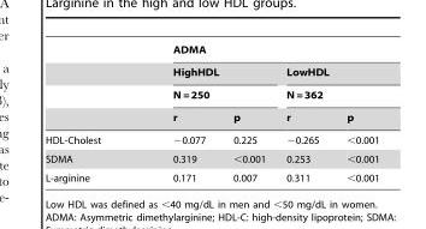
<table><thead><tr><td rowspan="4"></td><td colspan="4">ADMA</td></tr><tr><td rowspan="2" colspan="2">HighHDL N = 250</td><td rowspan="2" colspan="2">LowHDL N = 362</td></tr><tr></tr><tr><td>r</td><td>p</td><td>r</td><td>p</td></tr></thead><tbody><tr><td>HDL-Cholest</td><td>−0.077</td><td>0.225</td><td>−0.265</td><td>&lt;0.001</td></tr><tr><td>SDMA</td><td>0.319</td><td>&lt;0.001</td><td>0.253</td><td>&lt;0.001</td></tr><tr><td>L-arginine</td><td>0.171</td><td>0.007</td><td>0.311</td><td>&lt;0.001</td></tr></tbody></table>